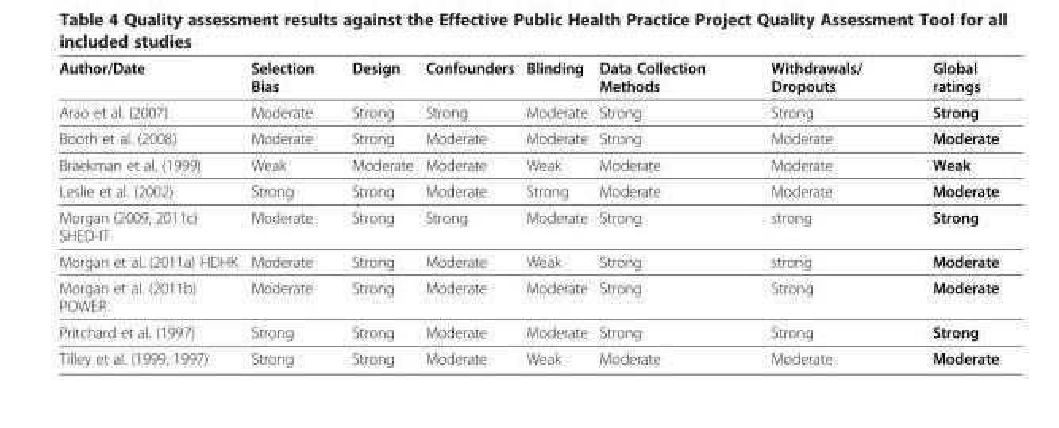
<table><thead><tr><td>Author/Date</td><td>Selection Bias</td><td>Design</td><td>Confounders</td><td>Blinding</td><td>Data Collection Methods</td><td>Withdrawals/ Dropouts</td><td>Global ratings</td></tr></thead><tbody><tr><td>Arao et al. (2007)</td><td>Moderate</td><td>Strong</td><td>Strong</td><td>Moderate</td><td>Strong</td><td>Strong</td><td>Strong</td></tr><tr><td>Booth et al. (2008)</td><td>Moderate</td><td>Strong</td><td>Moderate</td><td>Moderate</td><td>Strong</td><td>Moderate</td><td>Moderate</td></tr><tr><td>Braekman et al. (1999)</td><td>Weak</td><td>Moderate</td><td>Moderate</td><td>Weak</td><td>Moderate</td><td>Moderate</td><td>Weak</td></tr><tr><td>Leslie et al. (2002)</td><td>Strong</td><td>Strong</td><td>Moderate</td><td>Strong</td><td>Moderate</td><td>Moderate</td><td>Moderate</td></tr><tr><td>Morgan (2009, 2011c) SHED-IT</td><td>Moderate</td><td>Strong</td><td>Strong</td><td>Moderate</td><td>Strong</td><td>strong</td><td>Strong</td></tr><tr><td>Morgan et al. (2011a) HDHK</td><td>Moderate</td><td>Strong</td><td>Moderate</td><td>Weak</td><td>Strong</td><td>strong</td><td>Moderate</td></tr><tr><td>Morgan et al. (2011b) POWER</td><td>Moderate</td><td>Strong</td><td>Moderate</td><td>Moderate</td><td>Strong</td><td>Strong</td><td>Moderate</td></tr><tr><td>Pritchard et al. (1997)</td><td>Strong</td><td>Strong</td><td>Moderate</td><td>Moderate</td><td>Strong</td><td>Strong</td><td>Strong</td></tr><tr><td>Tilley et al. (1999, 1997)</td><td>Strong</td><td>Strong</td><td>Moderate</td><td>Weak</td><td>Moderate</td><td>Moderate</td><td>Moderate</td></tr></tbody></table>